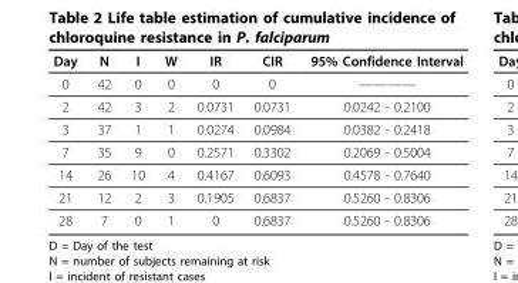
<table><thead><tr><td>Day</td><td>N</td><td>I</td><td>W</td><td>IR</td><td>CIR</td><td>95% Confidence Interval</td></tr></thead><tbody><tr><td>0</td><td>42</td><td>0</td><td>0</td><td>0</td><td>0</td><td>————</td></tr><tr><td>2</td><td>42</td><td>3</td><td>2</td><td>0.0731</td><td>0.0731</td><td>0.0242 - 0.2100</td></tr><tr><td>3</td><td>37</td><td>1</td><td>1</td><td>0.0274</td><td>0.0984</td><td>0.0382 - 0.2418</td></tr><tr><td>7</td><td>35</td><td>9</td><td>0</td><td>0.2571</td><td>0.3302</td><td>0.2069 - 0.5004</td></tr><tr><td>14</td><td>26</td><td>10</td><td>4</td><td>0.4167</td><td>0.6093</td><td>0.4578 - 0.7640</td></tr><tr><td>21</td><td>12</td><td>2</td><td>3</td><td>0.1905</td><td>0.6837</td><td>0.5260 - 0.8306</td></tr><tr><td>28</td><td>7</td><td>0</td><td>1</td><td>0</td><td>0.6837</td><td>0.5260 - 0.8306</td></tr></tbody></table>